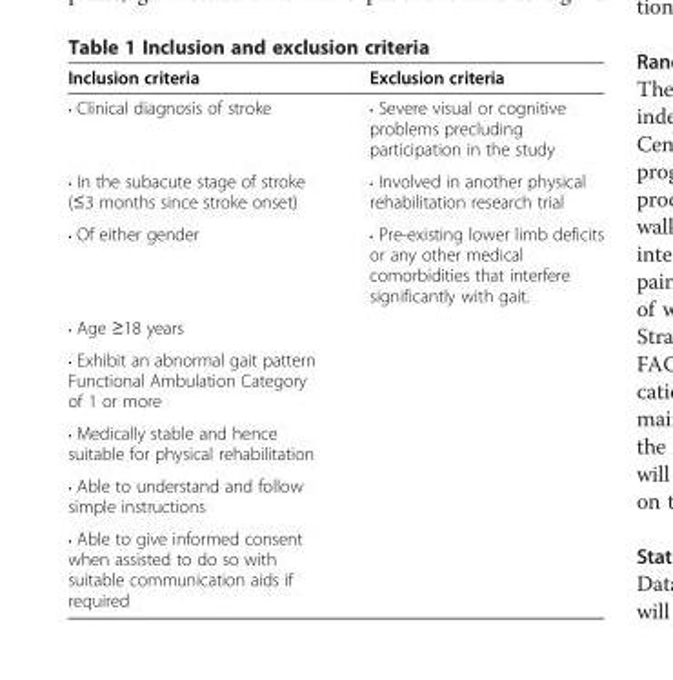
<table><thead><tr><td>Inclusion criteria</td><td>Exclusion criteria</td></tr></thead><tbody><tr><td>• Clinical diagnosis of stroke</td><td>• Severe visual or cognitive problems precluding participation in the study</td></tr><tr><td>• In the subacute stage of stroke (≤3 months since stroke onset)</td><td>• Involved in another physical rehabilitation research trial</td></tr><tr><td>• Of either gender</td><td>• Pre-existing lower limb deficits or any other medical comorbidities that interfere significantly with gait.</td></tr><tr><td colspan="2">• Age ≥18 years</td></tr><tr><td colspan="2">• Exhibit an abnormal gait pattern Functional Ambulation Category of 1 or more</td></tr><tr><td colspan="2">• Medically stable and hence suitable for physical rehabilitation</td></tr><tr><td colspan="2">• Able to understand and follow simple instructions</td></tr><tr><td>• Able to give informed consent when assisted to do so with suitable communication aids if required</td><td></td></tr></tbody></table>